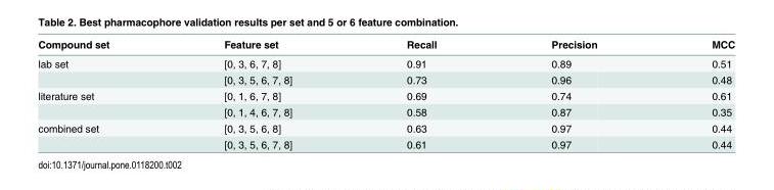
<table><thead><tr><td>Compound set</td><td>Feature set</td><td>Recall</td><td>Precision</td><td>MCC</td></tr></thead><tbody><tr><td rowspan="2">lab set</td><td>[0, 3, 6, 7, 8]</td><td>0.91</td><td>0.89</td><td>0.51</td></tr><tr><td>[0, 3, 5, 6, 7, 8]</td><td>0.73</td><td>0.96</td><td>0.48</td></tr><tr><td rowspan="2">literature set</td><td>[0, 1, 6, 7, 8]</td><td>0.69</td><td>0.74</td><td>0.61</td></tr><tr><td>[0, 1, 4, 6, 7, 8]</td><td>0.58</td><td>0.87</td><td>0.35</td></tr><tr><td rowspan="2">combined set</td><td>[0, 3, 5, 6, 8]</td><td>0.63</td><td>0.97</td><td>0.44</td></tr><tr><td>[0, 3, 5, 6, 7, 8]</td><td>0.61</td><td>0.97</td><td>0.44</td></tr></tbody></table>